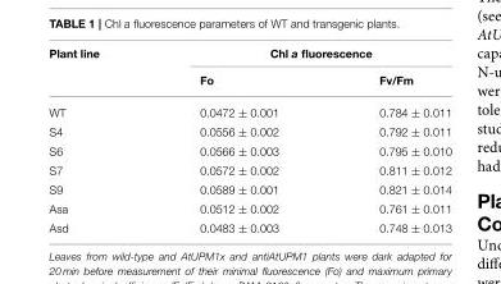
<table><thead><tr><td rowspan="2">Plant line</td><td colspan="2">Chl a fluorescence</td></tr><tr><td>Fo</td><td>Fv/Fm</td></tr></thead><tbody><tr><td>WT</td><td>0.0472 ± 0.001</td><td>0.784 ± 0.011</td></tr><tr><td>S4</td><td>0.0556 ± 0.002</td><td>0.792 ± 0.011</td></tr><tr><td>S6</td><td>0.0566 ± 0.003</td><td>0.795 ± 0.010</td></tr><tr><td>S7</td><td>0.0572 ± 0.002</td><td>0.811 ± 0.012</td></tr><tr><td>S9</td><td>0.0589 ± 0.001</td><td>0.821 ± 0.014</td></tr><tr><td>Asa</td><td>0.0512 ± 0.002</td><td>0.761 ± 0.011</td></tr><tr><td>Asd</td><td>0.0483 ± 0.003</td><td>0.748 ± 0.013</td></tr></tbody></table>